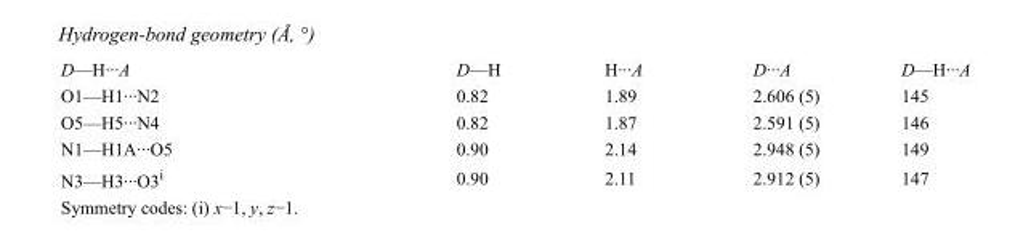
<table><tbody><tr><td>D—H···A</td><td>D—H</td><td>H···A</td><td>D···A</td><td>D—H···A</td></tr><tr><td>O1—H1···N2</td><td>0.82</td><td>1.89</td><td>2.606 (5)</td><td>145</td></tr><tr><td>O5—H5···N4</td><td>0.82</td><td>1.87</td><td>2.591 (5)</td><td>146</td></tr><tr><td>N1—H1A···O5</td><td>0.90</td><td>2.14</td><td>2.948 (5)</td><td>149</td></tr><tr><td>N3—H3···O3<sup>i</sup></td><td>0.90</td><td>2.11</td><td>2.912 (5)</td><td>147</td></tr></tbody></table>